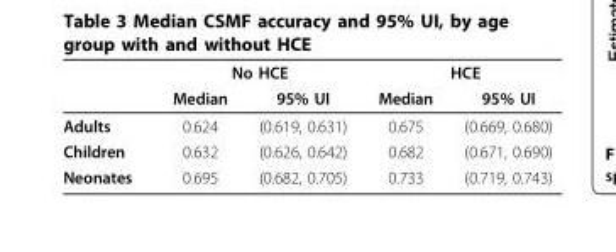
<table><thead><tr><td rowspan="2"></td><td colspan="2">No HCE</td><td colspan="2">HCE</td></tr><tr><td>Median</td><td>95% UI</td><td>Median</td><td>95% UI</td></tr></thead><tbody><tr><td>Adults</td><td>0.624</td><td>(0.619, 0.631)</td><td>0.675</td><td>(0.669, 0.680)</td></tr><tr><td>Children</td><td>0.632</td><td>(0.626, 0.642)</td><td>0.682</td><td>(0.671, 0.690)</td></tr><tr><td>Neonates</td><td>0.695</td><td>(0.682, 0.705)</td><td>0.733</td><td>(0.719, 0.743)</td></tr></tbody></table>